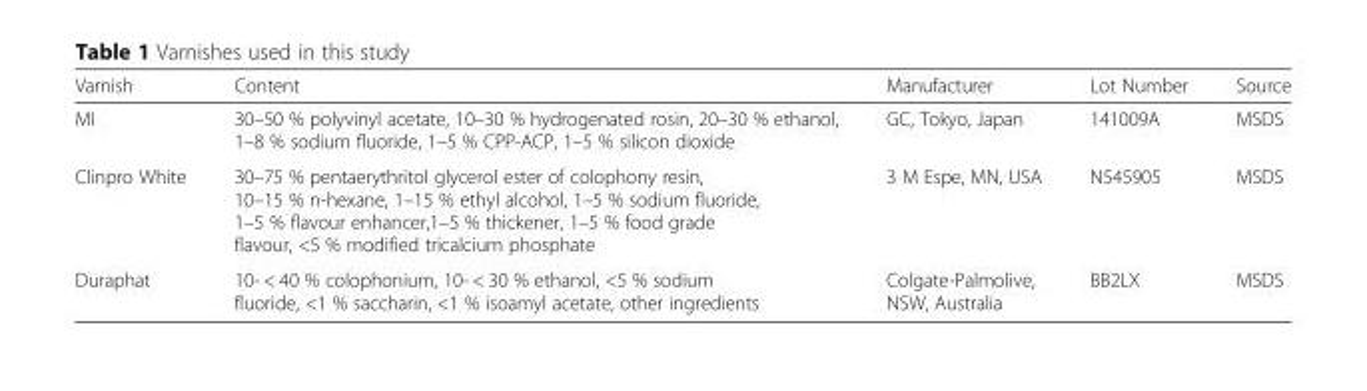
<table><thead><tr><td>Varnish</td><td>Content</td><td>Manufacturer</td><td>Lot Number</td><td>Source</td></tr></thead><tbody><tr><td>MI</td><td>30–50 % polyvinyl acetate, 10–30 % hydrogenated rosin, 20–30 % ethanol, 1–8 % sodium fluoride, 1–5 % CPP-ACP, 1–5 % silicon dioxide</td><td>GC, Tokyo, Japan</td><td>141009A</td><td>MSDS</td></tr><tr><td>Clinpro White</td><td>30–75 % pentaerythritol glycerol ester of colophony resin, 10–15 % n-hexane, 1–15 % ethyl alcohol, 1–5 % sodium fluoride, 1–5 % flavour enhancer,1–5 % thickener, 1–5 % food grade flavour, &lt;5 % modified tricalcium phosphate</td><td>3 M Espe, MN, USA</td><td>N545905</td><td>MSDS</td></tr><tr><td>Duraphat</td><td>10- &lt; 40 % colophonium, 10- &lt; 30 % ethanol, &lt;5 % sodium fluoride, &lt;1 % saccharin, &lt;1 % isoamyl acetate, other ingredients</td><td>Colgate-Palmolive, NSW, Australia</td><td>BB2LX</td><td>MSDS</td></tr></tbody></table>